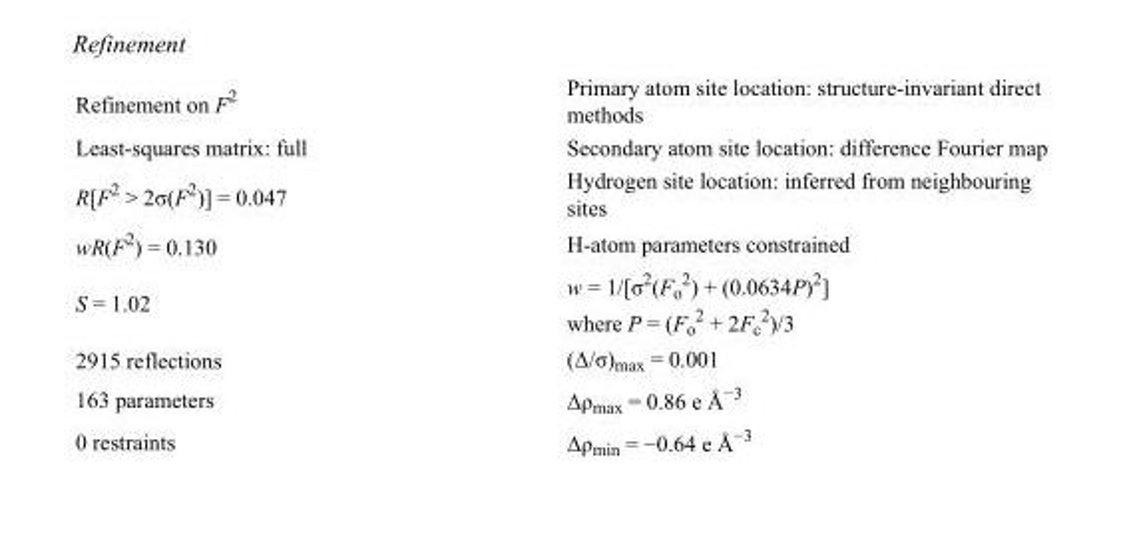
<table><tbody><tr><td>Refinement on F<sup>2</sup></td><td>Primary atom site location: structure-invariant direct methods</td></tr><tr><td>Least-squares matrix: full</td><td>Secondary atom site location: difference Fourier map</td></tr><tr><td>R[F<sup>2</sup> &gt; 2σ(F<sup>2</sup>)] = 0.047</td><td>Hydrogen site location: inferred from neighbouring sites</td></tr><tr><td>wR(F<sup>2</sup>) = 0.130</td><td>H-atom parameters constrained</td></tr><tr><td>S = 1.02</td><td>w = 1/[σ<sup>2</sup>(F<sub>o</sub> <sup>2</sup>) + (0.0634P)<sup>2</sup>] where P = (F<sub>o</sub> <sup>2</sup> + 2F<sub>c</sub> <sup>2</sup>)/3</td></tr><tr><td>2915 reflections</td><td>(Δ/σ)<sub>max</sub> = 0.001</td></tr><tr><td>163 parameters</td><td>Δρ<sub>max</sub> = 0.86 e Å<sup>−3</sup></td></tr><tr><td>0 restraints</td><td>Δρ<sub>min</sub> = −0.64 e Å<sup>−3</sup></td></tr></tbody></table>